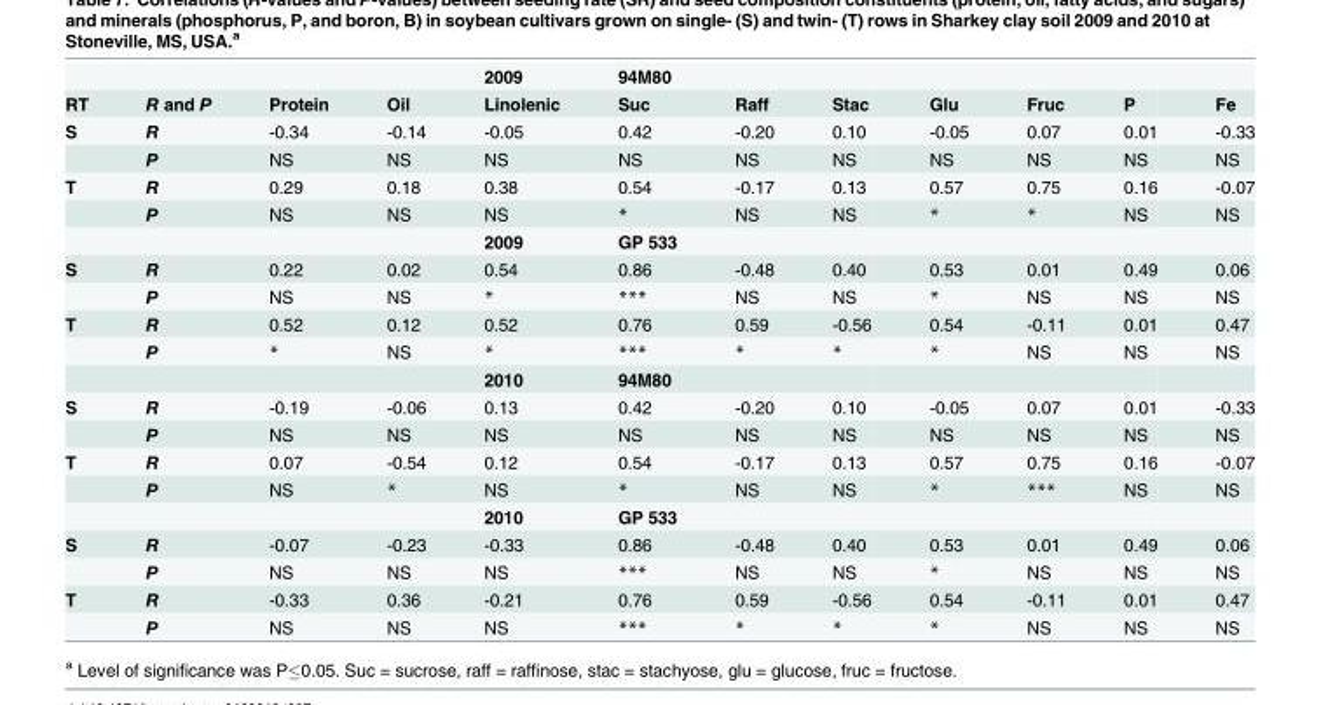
<table><thead><tr><td></td><td></td><td></td><td></td><td>2009</td><td>94M80</td><td></td><td></td><td></td><td></td><td></td><td></td></tr></thead><tbody><tr><td>RT</td><td>R and P</td><td>Protein</td><td>Oil</td><td>Linolenic</td><td>Suc</td><td>Raff</td><td>Stac</td><td>Glu</td><td>Fruc</td><td>P</td><td>Fe</td></tr><tr><td rowspan="2">S</td><td>R</td><td>-0.34</td><td>-0.14</td><td>-0.05</td><td>0.42</td><td>-0.20</td><td>0.10</td><td>-0.05</td><td>0.07</td><td>0.01</td><td>-0.33</td></tr><tr><td>P</td><td>NS</td><td>NS</td><td>NS</td><td>NS</td><td>NS</td><td>NS</td><td>NS</td><td>NS</td><td>NS</td><td>NS</td></tr><tr><td rowspan="3">T</td><td>R</td><td>0.29</td><td>0.18</td><td>0.38</td><td>0.54</td><td>-0.17</td><td>0.13</td><td>0.57</td><td>0.75</td><td>0.16</td><td>-0.07</td></tr><tr><td>P</td><td>NS</td><td>NS</td><td>NS</td><td>*</td><td>NS</td><td>NS</td><td>*</td><td>*</td><td>NS</td><td>NS</td></tr><tr><td></td><td></td><td></td><td>2009</td><td>GP 533</td><td></td><td></td><td></td><td></td><td></td><td></td></tr><tr><td rowspan="2">S</td><td>R</td><td>0.22</td><td>0.02</td><td>0.54</td><td>0.86</td><td>-0.48</td><td>0.40</td><td>0.53</td><td>0.01</td><td>0.49</td><td>0.06</td></tr><tr><td>P</td><td>NS</td><td>NS</td><td>*</td><td>***</td><td>NS</td><td>NS</td><td>*</td><td>NS</td><td>NS</td><td>NS</td></tr><tr><td rowspan="3">T</td><td>R</td><td>0.52</td><td>0.12</td><td>0.52</td><td>0.76</td><td>0.59</td><td>-0.56</td><td>0.54</td><td>-0.11</td><td>0.01</td><td>0.47</td></tr><tr><td>P</td><td>*</td><td>NS</td><td>*</td><td>***</td><td>*</td><td>*</td><td>*</td><td>NS</td><td>NS</td><td>NS</td></tr><tr><td></td><td></td><td></td><td>2010</td><td>94M80</td><td></td><td></td><td></td><td></td><td></td><td></td></tr><tr><td rowspan="2">S</td><td>R</td><td>-0.19</td><td>-0.06</td><td>0.13</td><td>0.42</td><td>-0.20</td><td>0.10</td><td>-0.05</td><td>0.07</td><td>0.01</td><td>-0.33</td></tr><tr><td>P</td><td>NS</td><td>NS</td><td>NS</td><td>NS</td><td>NS</td><td>NS</td><td>NS</td><td>NS</td><td>NS</td><td>NS</td></tr><tr><td rowspan="3">T</td><td>R</td><td>0.07</td><td>-0.54</td><td>0.12</td><td>0.54</td><td>-0.17</td><td>0.13</td><td>0.57</td><td>0.75</td><td>0.16</td><td>-0.07</td></tr><tr><td>P</td><td>NS</td><td>*</td><td>NS</td><td>*</td><td>NS</td><td>NS</td><td>*</td><td>***</td><td>NS</td><td>NS</td></tr><tr><td></td><td></td><td></td><td>2010</td><td>GP 533</td><td></td><td></td><td></td><td></td><td></td><td></td></tr><tr><td rowspan="2">S</td><td>R</td><td>-0.07</td><td>-0.23</td><td>-0.33</td><td>0.86</td><td>-0.48</td><td>0.40</td><td>0.53</td><td>0.01</td><td>0.49</td><td>0.06</td></tr><tr><td>P</td><td>NS</td><td>NS</td><td>NS</td><td>***</td><td>NS</td><td>NS</td><td>*</td><td>NS</td><td>NS</td><td>NS</td></tr><tr><td rowspan="2">T</td><td>R</td><td>-0.33</td><td>0.36</td><td>-0.21</td><td>0.76</td><td>0.59</td><td>-0.56</td><td>0.54</td><td>-0.11</td><td>0.01</td><td>0.47</td></tr><tr><td>P</td><td>NS</td><td>NS</td><td>NS</td><td>***</td><td>*</td><td>*</td><td>*</td><td>NS</td><td>NS</td><td>NS</td></tr></tbody></table>